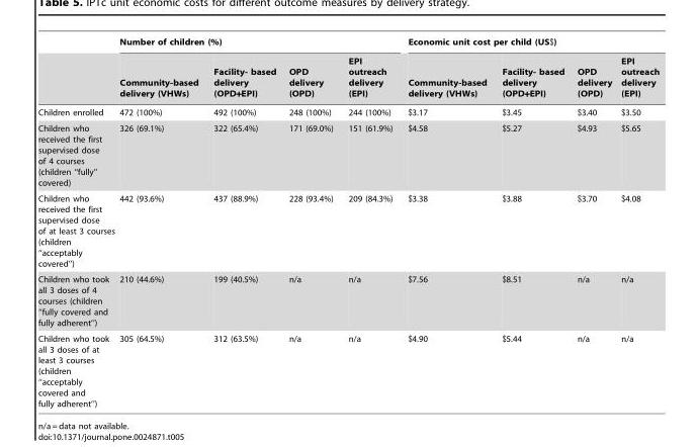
<table><thead><tr><td rowspan="2"></td><td colspan="4">Number of children (%)</td><td colspan="4">Economic unit cost per child (US$)</td></tr><tr><td>Community-based delivery (VHWs)</td><td>Facility- based delivery (OPD+EPI)</td><td>OPD delivery (OPD)</td><td>EPI outreach delivery (EPI)</td><td>Community-based delivery (VHWs)</td><td>Facility- based delivery (OPD+EPI)</td><td>OPD delivery (OPD)</td><td>EPI outreach delivery (EPI)</td></tr></thead><tbody><tr><td>Children enrolled</td><td>472 (100%)</td><td>492 (100%)</td><td>248 (100%)</td><td>244 (100%)</td><td>$3.17</td><td>$3.45</td><td>$3.40</td><td>$3.50</td></tr><tr><td>Children who received the first supervised dose of 4 courses (children ‘‘fully’’ covered)</td><td>326 (69.1%)</td><td>322 (65.4%)</td><td>171 (69.0%)</td><td>151 (61.9%)</td><td>$4.58</td><td>$5.27</td><td>$4.93</td><td>$5.65</td></tr><tr><td>Children who received the first supervised dose of at least 3 courses (children ‘‘acceptably covered’’)</td><td>442 (93.6%)</td><td>437 (88.9%)</td><td>228 (93.4%)</td><td>209 (84.3%)</td><td>$3.38</td><td>$3.88</td><td>$3.70</td><td>$4.08</td></tr><tr><td>Children who took all 3 doses of 4 courses (children ‘‘fully covered and fully adherent’’)</td><td>210 (44.6%)</td><td>199 (40.5%)</td><td>n/a</td><td>n/a</td><td>$7.56</td><td>$8.51</td><td>n/a</td><td>n/a</td></tr><tr><td>Children who took all 3 doses of at least 3 courses (children ‘‘acceptably covered and fully adherent’’)</td><td>305 (64.5%)</td><td>312 (63.5%)</td><td>n/a</td><td>n/a</td><td>$4.90</td><td>$5.44</td><td>n/a</td><td>n/a</td></tr></tbody></table>